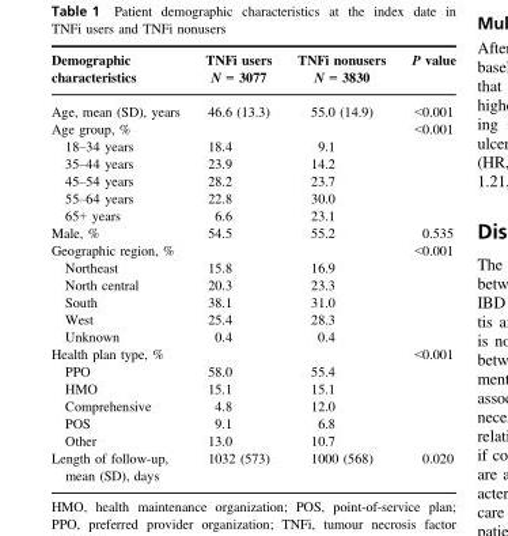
<table><thead><tr><td rowspan="2">Demographic characteristics</td><td rowspan="2">TNFi users N = 3077</td><td rowspan="2">TNFi nonusers N = 3830</td><td rowspan="2">P value</td></tr><tr></tr></thead><tbody><tr><td>Age, mean (SD), years</td><td>46.6 (13.3)</td><td>55.0 (14.9)</td><td>&lt;0.001</td></tr><tr><td colspan="3">Age group, %</td><td>&lt;0.001</td></tr><tr><td>18–34 years</td><td>18.4</td><td>9.1</td><td rowspan="5"></td></tr><tr><td>35–44 years</td><td>23.9</td><td>14.2</td></tr><tr><td>45–54 years</td><td>28.2</td><td>23.7</td></tr><tr><td>55–64 years</td><td>22.8</td><td>30.0</td></tr><tr><td>65+ years</td><td>6.6</td><td>23.1</td></tr><tr><td>Male, %</td><td>54.5</td><td>55.2</td><td>0.535</td></tr><tr><td colspan="3">Geographic region, %</td><td>&lt;0.001</td></tr><tr><td>Northeast</td><td>15.8</td><td>16.9</td><td rowspan="5"></td></tr><tr><td>North central</td><td>20.3</td><td>23.3</td></tr><tr><td>South</td><td>38.1</td><td>31.0</td></tr><tr><td>West</td><td>25.4</td><td>28.3</td></tr><tr><td>Unknown</td><td>0.4</td><td>0.4</td></tr><tr><td colspan="3">Health plan type, %</td><td>&lt;0.001</td></tr><tr><td>PPO</td><td>58.0</td><td>55.4</td><td rowspan="5"></td></tr><tr><td>HMO</td><td>15.1</td><td>15.1</td></tr><tr><td>Comprehensive</td><td>4.8</td><td>12.0</td></tr><tr><td>POS</td><td>9.1</td><td>6.8</td></tr><tr><td>Other</td><td>13.0</td><td>10.7</td></tr><tr><td>Length of follow-up, mean (SD), days</td><td>1032 (573)</td><td>1000 (568)</td><td>0.020</td></tr></tbody></table>